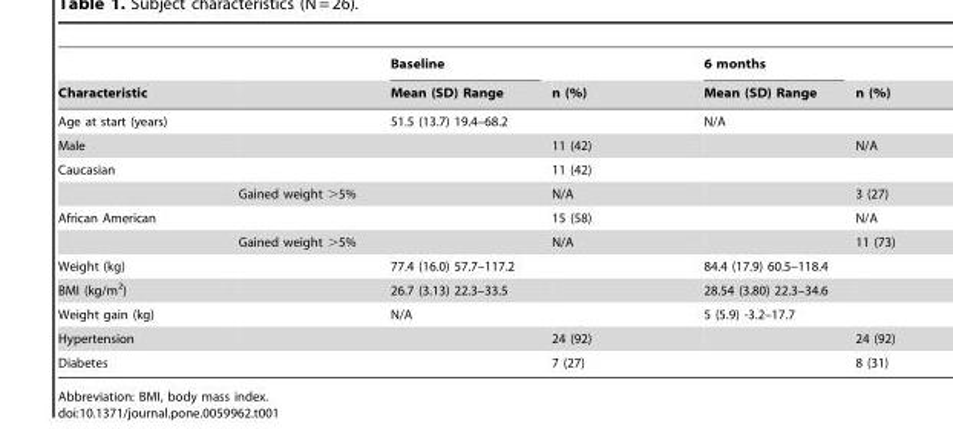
<table><thead><tr><td rowspan="2">Characteristic</td><td rowspan="2"></td><td rowspan="2">Baseline Mean (SD) Range</td><td rowspan="2">n (%)</td><td rowspan="2">6 months Mean (SD) Range</td><td rowspan="2">n (%)</td></tr><tr></tr></thead><tbody><tr><td>Age at start (years)</td><td></td><td>51.5 (13.7) 19.4–68.2</td><td></td><td>N/A</td><td></td></tr><tr><td>Male</td><td></td><td></td><td>11 (42)</td><td></td><td>N/A</td></tr><tr><td rowspan="2">Caucasian</td><td></td><td></td><td>11 (42)</td><td></td><td></td></tr><tr><td>Gained weight &gt;5%</td><td></td><td>N/A</td><td></td><td>3 (27)</td></tr><tr><td rowspan="2">African American</td><td></td><td></td><td>15 (58)</td><td></td><td>N/A</td></tr><tr><td>Gained weight &gt;5%</td><td></td><td>N/A</td><td></td><td>11 (73)</td></tr><tr><td>Weight (kg)</td><td></td><td>77.4 (16.0) 57.7–117.2</td><td></td><td>84.4 (17.9) 60.5–118.4</td><td></td></tr><tr><td>BMI (kg/m<sup>2</sup>)</td><td></td><td>26.7 (3.13) 22.3–33.5</td><td></td><td>28.54 (3.80) 22.3–34.6</td><td></td></tr><tr><td>Weight gain (kg)</td><td></td><td>N/A</td><td></td><td>5 (5.9) -3.2–17.7</td><td></td></tr><tr><td>Hypertension</td><td></td><td></td><td>24 (92)</td><td></td><td>24 (92)</td></tr><tr><td>Diabetes</td><td></td><td></td><td>7 (27)</td><td></td><td>8 (31)</td></tr></tbody></table>